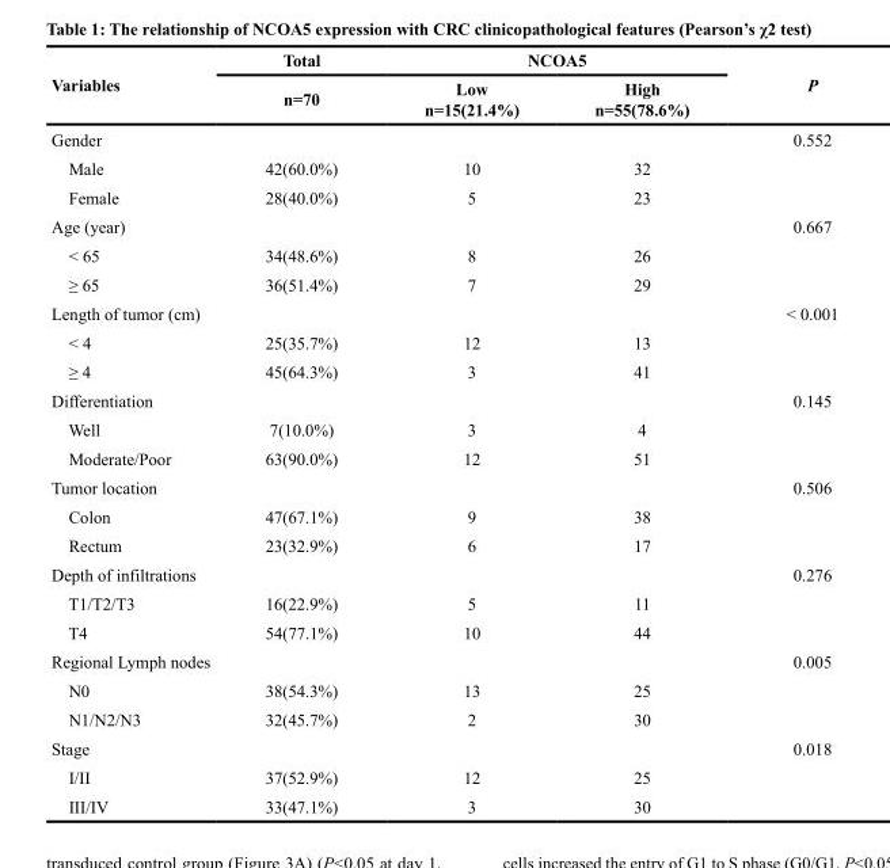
<table><thead><tr><td rowspan="2">Variables</td><td rowspan="2">Total n=70</td><td colspan="2">NCOA5</td><td rowspan="2">P</td></tr><tr><td>Low n=15(21.4%)</td><td>High n=55(78.6%)</td></tr></thead><tbody><tr><td>Gender</td><td></td><td></td><td></td><td>0.552</td></tr><tr><td>Male</td><td>42(60.0%)</td><td>10</td><td>32</td><td></td></tr><tr><td>Female</td><td>28(40.0%)</td><td>5</td><td>23</td><td></td></tr><tr><td>Age (year)</td><td></td><td></td><td></td><td>0.667</td></tr><tr><td>&lt; 65</td><td>34(48.6%)</td><td>8</td><td>26</td><td></td></tr><tr><td>≥ 65</td><td>36(51.4%)</td><td>7</td><td>29</td><td></td></tr><tr><td>Length of tumor (cm)</td><td></td><td></td><td></td><td>&lt; 0.001</td></tr><tr><td>&lt; 4</td><td>25(35.7%)</td><td>12</td><td>13</td><td></td></tr><tr><td>≥ 4</td><td>45(64.3%)</td><td>3</td><td>41</td><td></td></tr><tr><td>Differentiation</td><td></td><td></td><td></td><td>0.145</td></tr><tr><td>Well</td><td>7(10.0%)</td><td>3</td><td>4</td><td></td></tr><tr><td>Moderate/Poor</td><td>63(90.0%)</td><td>12</td><td>51</td><td></td></tr><tr><td>Tumor location</td><td></td><td></td><td></td><td>0.506</td></tr><tr><td>Colon</td><td>47(67.1%)</td><td>9</td><td>38</td><td></td></tr><tr><td>Rectum</td><td>23(32.9%)</td><td>6</td><td>17</td><td></td></tr><tr><td>Depth of infiltrations</td><td></td><td></td><td></td><td>0.276</td></tr><tr><td>T1/T2/T3</td><td>16(22.9%)</td><td>5</td><td>11</td><td></td></tr><tr><td>T4</td><td>54(77.1%)</td><td>10</td><td>44</td><td></td></tr><tr><td>Regional Lymph nodes</td><td></td><td></td><td></td><td>0.005</td></tr><tr><td>N0</td><td>38(54.3%)</td><td>13</td><td>25</td><td></td></tr><tr><td>N1/N2/N3</td><td>32(45.7%)</td><td>2</td><td>30</td><td></td></tr><tr><td>Stage</td><td></td><td></td><td></td><td>0.018</td></tr><tr><td>I/II</td><td>37(52.9%)</td><td>12</td><td>25</td><td></td></tr><tr><td>III/IV</td><td>33(47.1%)</td><td>3</td><td>30</td><td></td></tr></tbody></table>